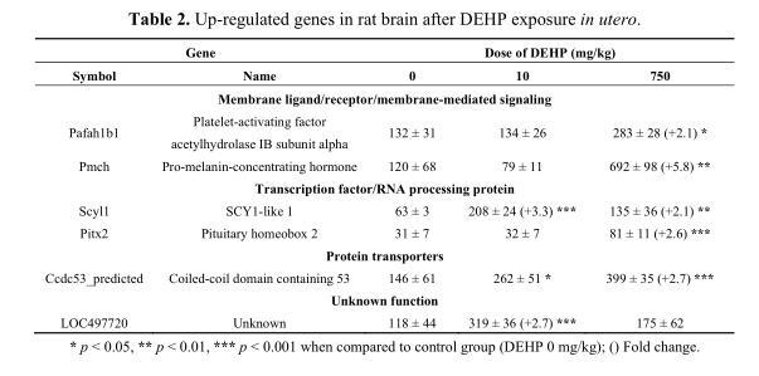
<table><thead><tr><td colspan="2">Gene</td><td colspan="3">Dose of DEHP (mg/kg)</td></tr><tr><td>Symbol</td><td>Name</td><td>0</td><td>10</td><td>750</td></tr></thead><tbody><tr><td colspan="5">Membrane ligand/receptor/membrane-mediated signaling</td></tr><tr><td>Pafah1b1</td><td>Platelet-activating factor acetylhydrolase IB subunit alpha</td><td>132 ± 31</td><td>134 ± 26</td><td>283 ± 28 (+2.1) *</td></tr><tr><td>Pmch</td><td>Pro-melanin-concentrating hormone</td><td>120 ± 68</td><td>79 ± 11</td><td>692 ± 98 (+5.8) **</td></tr><tr><td colspan="5">Transcription factor/RNA processing protein</td></tr><tr><td>Scyl1</td><td>SCY1-like 1</td><td>63 ± 3</td><td>208 ± 24 (+3.3) ***</td><td>135 ± 36 (+2.1) **</td></tr><tr><td>Pitx2</td><td>Pituitary homeobox 2</td><td>31 ± 7</td><td>32 ± 7</td><td>81 ± 11 (+2.6) ***</td></tr><tr><td colspan="5">Protein transporters</td></tr><tr><td>Ccdc53_predicted</td><td>Coiled-coil domain containing 53</td><td>146 ± 61</td><td>262 ± 51 *</td><td>399 ± 35 (+2.7) ***</td></tr><tr><td colspan="5">Unknown function</td></tr><tr><td>LOC497720</td><td>Unknown</td><td>118 ± 44</td><td>319 ± 36 (+2.7) ***</td><td>175 ± 62</td></tr></tbody></table>